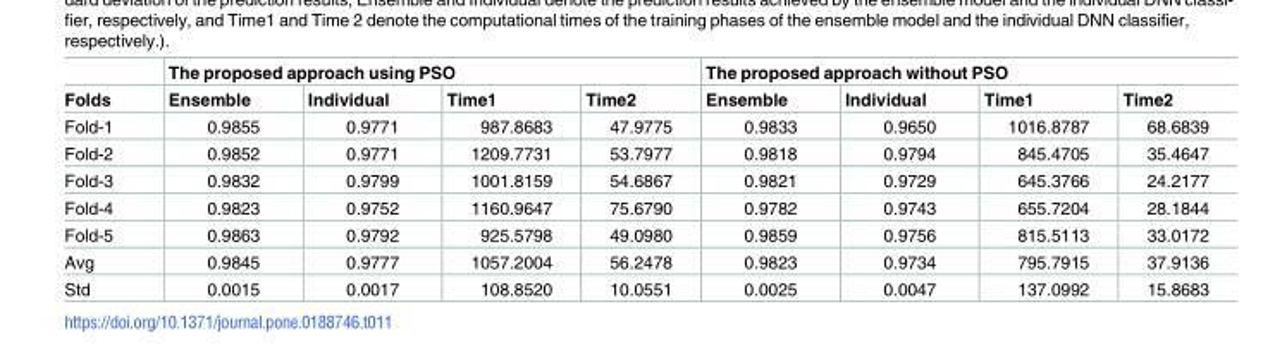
<table><thead><tr><td rowspan="2">Folds</td><td colspan="4">The proposed approach using PSO</td><td colspan="4">The proposed approach without PSO</td></tr><tr><td>Ensemble</td><td>Individual</td><td>Time1</td><td>Time2</td><td>Ensemble</td><td>Individual</td><td>Time1</td><td>Time2</td></tr></thead><tbody><tr><td>Fold-1</td><td>0.9855</td><td>0.9771</td><td>987.8683</td><td>47.9775</td><td>0.9833</td><td>0.9650</td><td>1016.8787</td><td>68.6839</td></tr><tr><td>Fold-2</td><td>0.9852</td><td>0.9771</td><td>1209.7731</td><td>53.7977</td><td>0.9818</td><td>0.9794</td><td>845.4705</td><td>35.4647</td></tr><tr><td>Fold-3</td><td>0.9832</td><td>0.9799</td><td>1001.8159</td><td>54.6867</td><td>0.9821</td><td>0.9729</td><td>645.3766</td><td>24.2177</td></tr><tr><td>Fold-4</td><td>0.9823</td><td>0.9752</td><td>1160.9647</td><td>75.6790</td><td>0.9782</td><td>0.9743</td><td>655.7204</td><td>28.1844</td></tr><tr><td>Fold-5</td><td>0.9863</td><td>0.9792</td><td>925.5798</td><td>49.0980</td><td>0.9859</td><td>0.9756</td><td>815.5113</td><td>33.0172</td></tr><tr><td>Avg</td><td>0.9845</td><td>0.9777</td><td>1057.2004</td><td>56.2478</td><td>0.9823</td><td>0.9734</td><td>795.7915</td><td>37.9136</td></tr><tr><td>Std</td><td>0.0015</td><td>0.0017</td><td>108.8520</td><td>10.0551</td><td>0.0025</td><td>0.0047</td><td>137.0992</td><td>15.8683</td></tr></tbody></table>